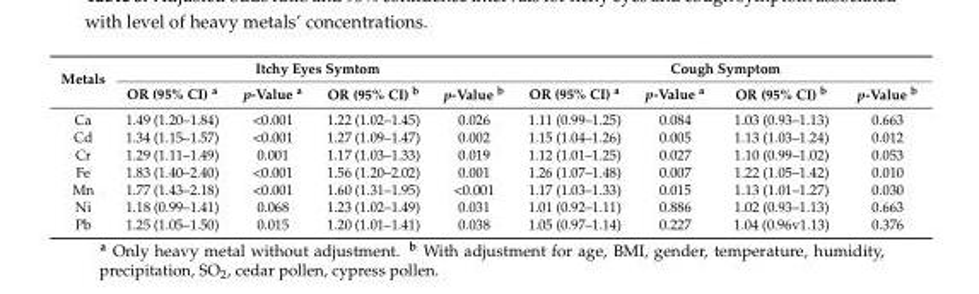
<table><thead><tr><td rowspan="2">Metals</td><td colspan="4">Itchy Eyes Symtom</td><td colspan="4">Cough Symptom</td></tr><tr><td>OR (95% CI) <sup>a</sup></td><td>p-Value <sup>a</sup></td><td>OR (95% CI) <sup>b</sup></td><td>p-Value <sup>b</sup></td><td>OR (95% CI) <sup>a</sup></td><td>p-Value <sup>a</sup></td><td>OR (95% CI) <sup>b</sup></td><td>p-Value <sup>b</sup></td></tr></thead><tbody><tr><td>Ca</td><td>1.49 (1.20–1.84)</td><td>&lt;0.001</td><td>1.22 (1.02–1.45)</td><td>0.026</td><td>1.11 (0.99–1.25)</td><td>0.084</td><td>1.03 (0.93–1.13)</td><td>0.663</td></tr><tr><td>Cd</td><td>1.34 (1.15–1.57)</td><td>&lt;0.001</td><td>1.27 (1.09–1.47)</td><td>0.002</td><td>1.15 (1.04–1.26)</td><td>0.005</td><td>1.13 (1.03–1.24)</td><td>0.012</td></tr><tr><td>Cr</td><td>1.29 (1.11–1.49)</td><td>0.001</td><td>1.17 (1.03–1.33)</td><td>0.019</td><td>1.12 (1.01–1.25)</td><td>0.027</td><td>1.10 (0.99–1.02)</td><td>0.053</td></tr><tr><td>Fe</td><td>1.83 (1.40–2.40)</td><td>&lt;0.001</td><td>1.56 (1.20–2.02)</td><td>0.001</td><td>1.26 (1.07–1.48)</td><td>0.007</td><td>1.22 (1.05–1.42)</td><td>0.010</td></tr><tr><td>Mn</td><td>1.77 (1.43–2.18)</td><td>&lt;0.001</td><td>1.60 (1.31–1.95)</td><td>&lt;0.001</td><td>1.17 (1.03–1.33)</td><td>0.015</td><td>1.13 (1.01–1.27)</td><td>0.030</td></tr><tr><td>Ni</td><td>1.18 (0.99–1.41)</td><td>0.068</td><td>1.23 (1.02–1.49)</td><td>0.031</td><td>1.01 (0.92–1.11)</td><td>0.886</td><td>1.02 (0.93–1.13)</td><td>0.663</td></tr><tr><td>Pb</td><td>1.25 (1.05–1.50)</td><td>0.015</td><td>1.20 (1.01–1.41)</td><td>0.038</td><td>1.05 (0.97–1.14)</td><td>0.227</td><td>1.04 (0.96v1.13)</td><td>0.376</td></tr></tbody></table>